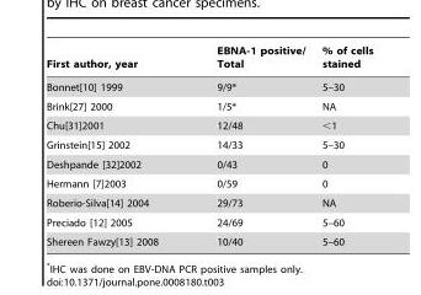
<table><thead><tr><td>First author, year</td><td>EBNA-1 positive/ Total</td><td>% of cells stained</td></tr></thead><tbody><tr><td>Bonnet[10] 1999</td><td>9/9*</td><td>5–30</td></tr><tr><td>Brink[27] 2000</td><td>1/5*</td><td>NA</td></tr><tr><td>Chu[31]2001</td><td>12/48</td><td>&lt;1</td></tr><tr><td>Grinstein[15] 2002</td><td>14/33</td><td>5–30</td></tr><tr><td>Deshpande [32]2002</td><td>0/43</td><td>0</td></tr><tr><td>Hermann [7]2003</td><td>0/59</td><td>0</td></tr><tr><td>Roberio-Silva[14] 2004</td><td>29/73</td><td>NA</td></tr><tr><td>Preciado [12] 2005</td><td>24/69</td><td>5–60</td></tr><tr><td>Shereen Fawzy[13] 2008</td><td>10/40</td><td>5–60</td></tr></tbody></table>